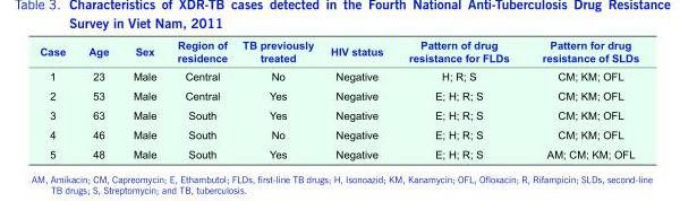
<table><thead><tr><td>Case</td><td>Age</td><td>Sex</td><td>Region of residence</td><td>TB previously treated</td><td>HIV status</td><td>Pattern of drug resistance for FLDs</td><td>Pattern for drug resistance of SLDs</td></tr></thead><tbody><tr><td>1</td><td>23</td><td>Male</td><td>Central</td><td>No</td><td>Negative</td><td>H; R; S</td><td>CM; KM; OFL</td></tr><tr><td>2</td><td>53</td><td>Male</td><td>Central</td><td>Yes</td><td>Negative</td><td>E; H; R; S</td><td>CM; KM; OFL</td></tr><tr><td>3</td><td>63</td><td>Male</td><td>South</td><td>Yes</td><td>Negative</td><td>E; H; R; S</td><td>CM; KM; OFL</td></tr><tr><td>4</td><td>46</td><td>Male</td><td>South</td><td>No</td><td>Negative</td><td>E; H; R; S</td><td>CM; KM; OFL</td></tr><tr><td>5</td><td>48</td><td>Male</td><td>South</td><td>Yes</td><td>Negative</td><td>E; H; R; S</td><td>AM; CM; KM; OFL</td></tr></tbody></table>